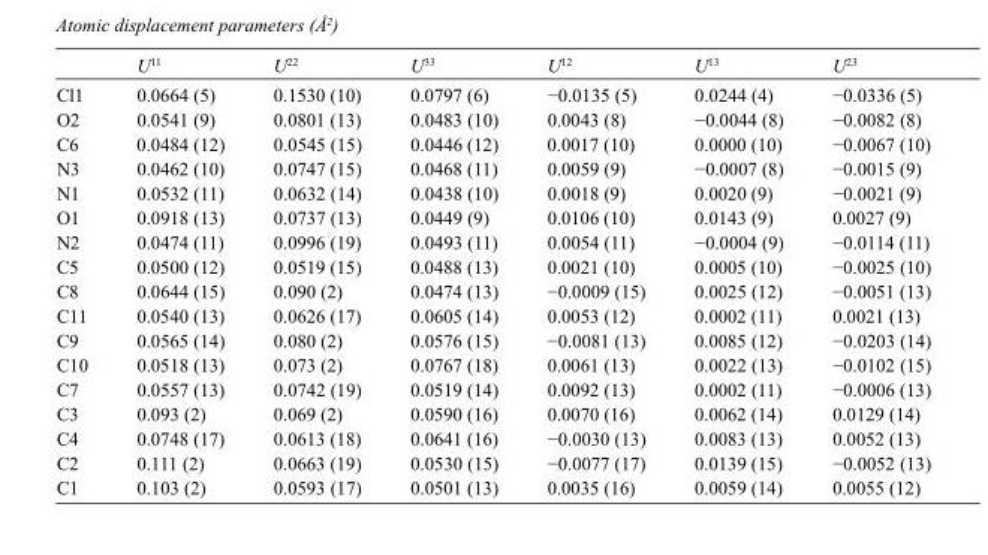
<table><thead><tr><td></td><td>U<sup>11</sup></td><td>U<sup>22</sup></td><td>U<sup>33</sup></td><td>U<sup>12</sup></td><td>U<sup>13</sup></td><td>U<sup>23</sup></td></tr></thead><tbody><tr><td>Cl1</td><td>0.0664 (5)</td><td>0.1530 (10)</td><td>0.0797 (6)</td><td>−0.0135 (5)</td><td>0.0244 (4)</td><td>−0.0336 (5)</td></tr><tr><td>O2</td><td>0.0541 (9)</td><td>0.0801 (13)</td><td>0.0483 (10)</td><td>0.0043 (8)</td><td>−0.0044 (8)</td><td>−0.0082 (8)</td></tr><tr><td>C6</td><td>0.0484 (12)</td><td>0.0545 (15)</td><td>0.0446 (12)</td><td>0.0017 (10)</td><td>0.0000 (10)</td><td>−0.0067 (10)</td></tr><tr><td>N3</td><td>0.0462 (10)</td><td>0.0747 (15)</td><td>0.0468 (11)</td><td>0.0059 (9)</td><td>−0.0007 (8)</td><td>−0.0015 (9)</td></tr><tr><td>N1</td><td>0.0532 (11)</td><td>0.0632 (14)</td><td>0.0438 (10)</td><td>0.0018 (9)</td><td>0.0020 (9)</td><td>−0.0021 (9)</td></tr><tr><td>O1</td><td>0.0918 (13)</td><td>0.0737 (13)</td><td>0.0449 (9)</td><td>0.0106 (10)</td><td>0.0143 (9)</td><td>0.0027 (9)</td></tr><tr><td>N2</td><td>0.0474 (11)</td><td>0.0996 (19)</td><td>0.0493 (11)</td><td>0.0054 (11)</td><td>−0.0004 (9)</td><td>−0.0114 (11)</td></tr><tr><td>C5</td><td>0.0500 (12)</td><td>0.0519 (15)</td><td>0.0488 (13)</td><td>0.0021 (10)</td><td>0.0005 (10)</td><td>−0.0025 (10)</td></tr><tr><td>C8</td><td>0.0644 (15)</td><td>0.090 (2)</td><td>0.0474 (13)</td><td>−0.0009 (15)</td><td>0.0025 (12)</td><td>−0.0051 (13)</td></tr><tr><td>C11</td><td>0.0540 (13)</td><td>0.0626 (17)</td><td>0.0605 (14)</td><td>0.0053 (12)</td><td>0.0002 (11)</td><td>0.0021 (13)</td></tr><tr><td>C9</td><td>0.0565 (14)</td><td>0.080 (2)</td><td>0.0576 (15)</td><td>−0.0081 (13)</td><td>0.0085 (12)</td><td>−0.0203 (14)</td></tr><tr><td>C10</td><td>0.0518 (13)</td><td>0.073 (2)</td><td>0.0767 (18)</td><td>0.0061 (13)</td><td>0.0022 (13)</td><td>−0.0102 (15)</td></tr><tr><td>C7</td><td>0.0557 (13)</td><td>0.0742 (19)</td><td>0.0519 (14)</td><td>0.0092 (13)</td><td>0.0002 (11)</td><td>−0.0006 (13)</td></tr><tr><td>C3</td><td>0.093 (2)</td><td>0.069 (2)</td><td>0.0590 (16)</td><td>0.0070 (16)</td><td>0.0062 (14)</td><td>0.0129 (14)</td></tr><tr><td>C4</td><td>0.0748 (17)</td><td>0.0613 (18)</td><td>0.0641 (16)</td><td>−0.0030 (13)</td><td>0.0083 (13)</td><td>0.0052 (13)</td></tr><tr><td>C2</td><td>0.111 (2)</td><td>0.0663 (19)</td><td>0.0530 (15)</td><td>−0.0077 (17)</td><td>0.0139 (15)</td><td>−0.0052 (13)</td></tr><tr><td>C1</td><td>0.103 (2)</td><td>0.0593 (17)</td><td>0.0501 (13)</td><td>0.0035 (16)</td><td>0.0059 (14)</td><td>0.0055 (12)</td></tr></tbody></table>